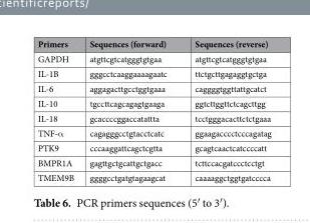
<table><thead><tr><td>Primers</td><td>Sequences (forward)</td><td>Sequences (reverse)</td></tr></thead><tbody><tr><td>GAPDH</td><td>atgttcgtcatgggtgtgaa</td><td>atgttcgtcatgggtgtgaa</td></tr><tr><td>IL-1B</td><td>gggcctcaaggaaaagaatc</td><td>ttctgcttgagaggtgctga</td></tr><tr><td>IL-6</td><td>aggagacttgcctggtgaaa</td><td>caggggtggttattgcatct</td></tr><tr><td>IL-10</td><td>tgccttcagcagagtgaaga</td><td>ggtcttggttctcagcttgg</td></tr><tr><td>IL-18</td><td>gcaccccggaccatattta</td><td>tcctgggacacttctctgaaa</td></tr><tr><td>TNF-α</td><td>cagagggcctgtacctcatc</td><td>ggaagacccctcccagatag</td></tr><tr><td>PTK9</td><td>cccaaggattcagctcgtta</td><td>gcagtcaactcatccccatt</td></tr><tr><td>BMPR1A</td><td>gagttgctgcattgctgacc</td><td>tcttccacgatccctcctgt</td></tr><tr><td>TMEM9B</td><td>ggggcctgatgtagaagcat</td><td>caaaaggctggtgatcccca</td></tr></tbody></table>